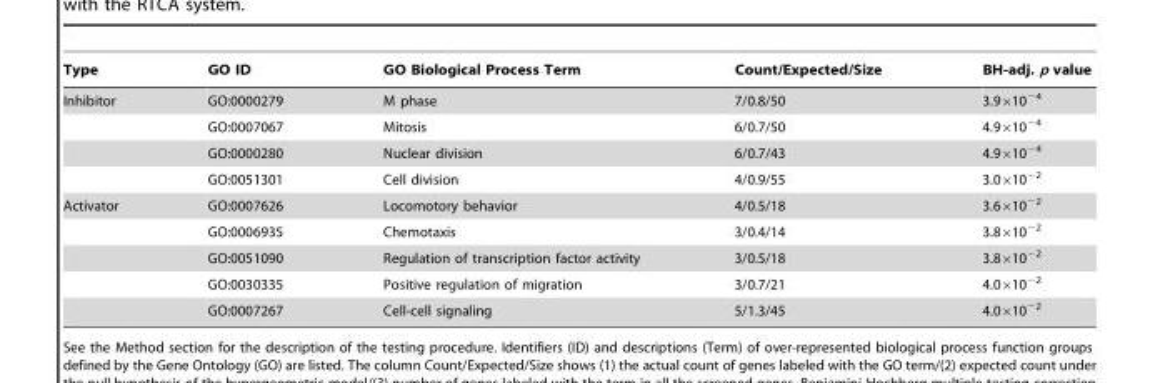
<table><thead><tr><td>Type</td><td>GO ID</td><td>GO Biological Process Term</td><td>Count/Expected/Size</td><td>BH-adj. p value</td></tr></thead><tbody><tr><td rowspan="4">Inhibitor</td><td>GO:0000279</td><td>M phase</td><td>7/0.8/50</td><td>3.9×10<sup>−4</sup></td></tr><tr><td>GO:0007067</td><td>Mitosis</td><td>6/0.7/50</td><td>4.9×10<sup>−4</sup></td></tr><tr><td>GO:0000280</td><td>Nuclear division</td><td>6/0.7/43</td><td>4.9×10<sup>−4</sup></td></tr><tr><td>GO:0051301</td><td>Cell division</td><td>4/0.9/55</td><td>3.0×10<sup>−2</sup></td></tr><tr><td rowspan="5">Activator</td><td>GO:0007626</td><td>Locomotory behavior</td><td>4/0.5/18</td><td>3.6×10<sup>−2</sup></td></tr><tr><td>GO:0006935</td><td>Chemotaxis</td><td>3/0.4/14</td><td>3.8×10<sup>−2</sup></td></tr><tr><td>GO:0051090</td><td>Regulation of transcription factor activity</td><td>3/0.5/18</td><td>3.8×10<sup>−2</sup></td></tr><tr><td>GO:0030335</td><td>Positive regulation of migration</td><td>3/0.7/21</td><td>4.0×10<sup>−2</sup></td></tr><tr><td>GO:0007267</td><td>Cell-cell signaling</td><td>5/1.3/45</td><td>4.0×10<sup>−2</sup></td></tr></tbody></table>